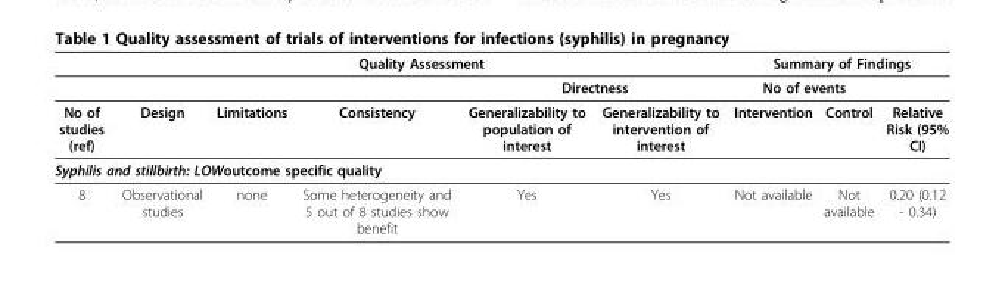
<table><thead><tr><td rowspan="3">No of studies (ref)</td><td colspan="5">Quality Assessment</td><td colspan="3">Summary of Findings</td></tr><tr><td rowspan="2">Design</td><td rowspan="2">Limitations</td><td rowspan="2">Consistency</td><td colspan="2">Directness</td><td colspan="2">No of events</td><td rowspan="2">Relative Risk (95% CI)</td></tr><tr><td>Generalizability to population of interest</td><td>Generalizability to intervention of interest</td><td>Intervention</td><td>Control</td></tr></thead><tbody><tr><td colspan="9">Syphilis and stillbirth: LOWoutcome specific quality</td></tr><tr><td>8</td><td>Observational studies</td><td>none</td><td>Some heterogeneity and 5 out of 8 studies show benefit</td><td>Yes</td><td>Yes</td><td>Not available</td><td>Not available</td><td>0.20 (0.12 - 0.34)</td></tr></tbody></table>